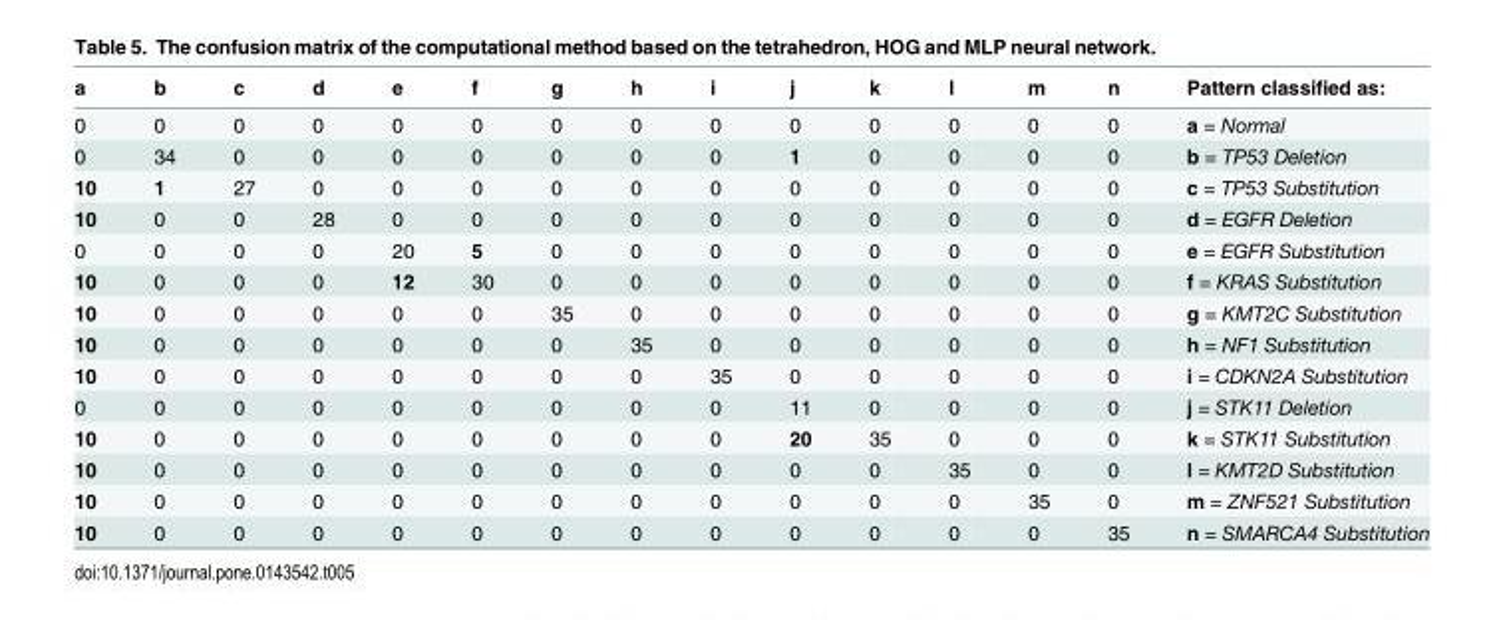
<table><thead><tr><td>a</td><td>b</td><td>c</td><td>d</td><td>e</td><td>f</td><td>g</td><td>h</td><td>i</td><td>j</td><td>k</td><td>l</td><td>m</td><td>n</td><td>Pattern classified as:</td></tr></thead><tbody><tr><td>0</td><td>0</td><td>0</td><td>0</td><td>0</td><td>0</td><td>0</td><td>0</td><td>0</td><td>0</td><td>0</td><td>0</td><td>0</td><td>0</td><td>a = Normal</td></tr><tr><td>0</td><td>34</td><td>0</td><td>0</td><td>0</td><td>0</td><td>0</td><td>0</td><td>0</td><td>1</td><td>0</td><td>0</td><td>0</td><td>0</td><td>b = TP53 Deletion</td></tr><tr><td>10</td><td>1</td><td>27</td><td>0</td><td>0</td><td>0</td><td>0</td><td>0</td><td>0</td><td>0</td><td>0</td><td>0</td><td>0</td><td>0</td><td>c = TP53 Substitution</td></tr><tr><td>10</td><td>0</td><td>0</td><td>28</td><td>0</td><td>0</td><td>0</td><td>0</td><td>0</td><td>0</td><td>0</td><td>0</td><td>0</td><td>0</td><td>d = EGFR Deletion</td></tr><tr><td>0</td><td>0</td><td>0</td><td>0</td><td>20</td><td>5</td><td>0</td><td>0</td><td>0</td><td>0</td><td>0</td><td>0</td><td>0</td><td>0</td><td>e = EGFR Substitution</td></tr><tr><td>10</td><td>0</td><td>0</td><td>0</td><td>12</td><td>30</td><td>0</td><td>0</td><td>0</td><td>0</td><td>0</td><td>0</td><td>0</td><td>0</td><td>f = KRAS Substitution</td></tr><tr><td>10</td><td>0</td><td>0</td><td>0</td><td>0</td><td>0</td><td>35</td><td>0</td><td>0</td><td>0</td><td>0</td><td>0</td><td>0</td><td>0</td><td>g = KMT2C Substitution</td></tr><tr><td>10</td><td>0</td><td>0</td><td>0</td><td>0</td><td>0</td><td>0</td><td>35</td><td>0</td><td>0</td><td>0</td><td>0</td><td>0</td><td>0</td><td>h = NF1 Substitution</td></tr><tr><td>10</td><td>0</td><td>0</td><td>0</td><td>0</td><td>0</td><td>0</td><td>0</td><td>35</td><td>0</td><td>0</td><td>0</td><td>0</td><td>0</td><td>i = CDKN2A Substitution</td></tr><tr><td>0</td><td>0</td><td>0</td><td>0</td><td>0</td><td>0</td><td>0</td><td>0</td><td>0</td><td>11</td><td>0</td><td>0</td><td>0</td><td>0</td><td>j = STK11 Deletion</td></tr><tr><td>10</td><td>0</td><td>0</td><td>0</td><td>0</td><td>0</td><td>0</td><td>0</td><td>0</td><td>20</td><td>35</td><td>0</td><td>0</td><td>0</td><td>k = STK11 Substitution</td></tr><tr><td>10</td><td>0</td><td>0</td><td>0</td><td>0</td><td>0</td><td>0</td><td>0</td><td>0</td><td>0</td><td>0</td><td>35</td><td>0</td><td>0</td><td>l = KMT2D Substitution</td></tr><tr><td>10</td><td>0</td><td>0</td><td>0</td><td>0</td><td>0</td><td>0</td><td>0</td><td>0</td><td>0</td><td>0</td><td>0</td><td>35</td><td>0</td><td>m = ZNF521 Substitution</td></tr><tr><td>10</td><td>0</td><td>0</td><td>0</td><td>0</td><td>0</td><td>0</td><td>0</td><td>0</td><td>0</td><td>0</td><td>0</td><td>0</td><td>35</td><td>n = SMARCA4 Substitution</td></tr></tbody></table>